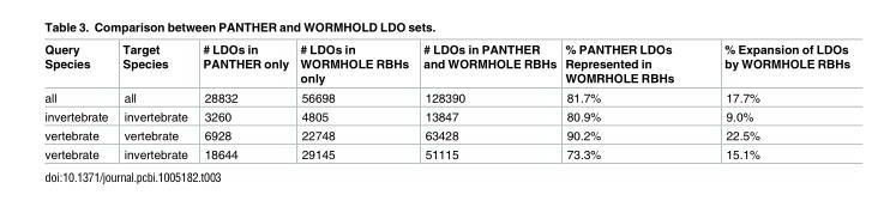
<table><thead><tr><td>Query Species</td><td>Target Species</td><td># LDOs in PANTHER only</td><td># LDOs in WORMHOLE RBHs only</td><td># LDOs in PANTHER and WORMHOLE RBHs</td><td>% PANTHER LDOs Represented in WOMRHOLE RBHs</td><td>% Expansion of LDOs by WORMHOLE RBHs</td></tr></thead><tbody><tr><td>all</td><td>all</td><td>28832</td><td>56698</td><td>128390</td><td>81.7%</td><td>17.7%</td></tr><tr><td>invertebrate</td><td>invertebrate</td><td>3260</td><td>4805</td><td>13847</td><td>80.9%</td><td>9.0%</td></tr><tr><td>vertebrate</td><td>vertebrate</td><td>6928</td><td>22748</td><td>63428</td><td>90.2%</td><td>22.5%</td></tr><tr><td>vertebrate</td><td>invertebrate</td><td>18644</td><td>29145</td><td>51115</td><td>73.3%</td><td>15.1%</td></tr></tbody></table>